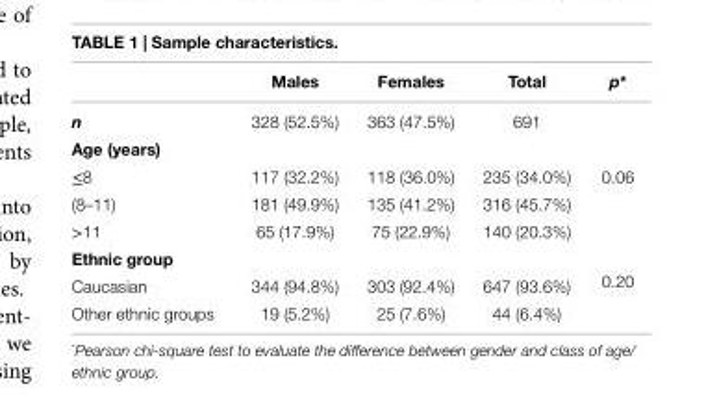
<table><thead><tr><td></td><td>Males</td><td>Females</td><td>Total</td><td>p*</td></tr></thead><tbody><tr><td>n</td><td>328 (52.5%)</td><td>363 (47.5%)</td><td>691</td><td></td></tr><tr><td colspan="5">age (years)</td></tr><tr><td>≤8</td><td>117 (32.2%)</td><td>118 (36.0%)</td><td>235 (34.0%)</td><td rowspan="3">0.06</td></tr><tr><td>(8–11)</td><td>181 (49.9%)</td><td>135 (41.2%)</td><td>316 (45.7%)</td></tr><tr><td>&gt;11</td><td>65 (17.9%)</td><td>75 (22.9%)</td><td>140 (20.3%)</td></tr><tr><td colspan="5">ethnic group</td></tr><tr><td>Caucasian</td><td>344 (94.8%)</td><td>303 (92.4%)</td><td>647 (93.6%)</td><td rowspan="2">0.20</td></tr><tr><td>Other ethnic groups</td><td>19 (5.2%)</td><td>25 (7.6%)</td><td>44 (6.4%)</td></tr></tbody></table>